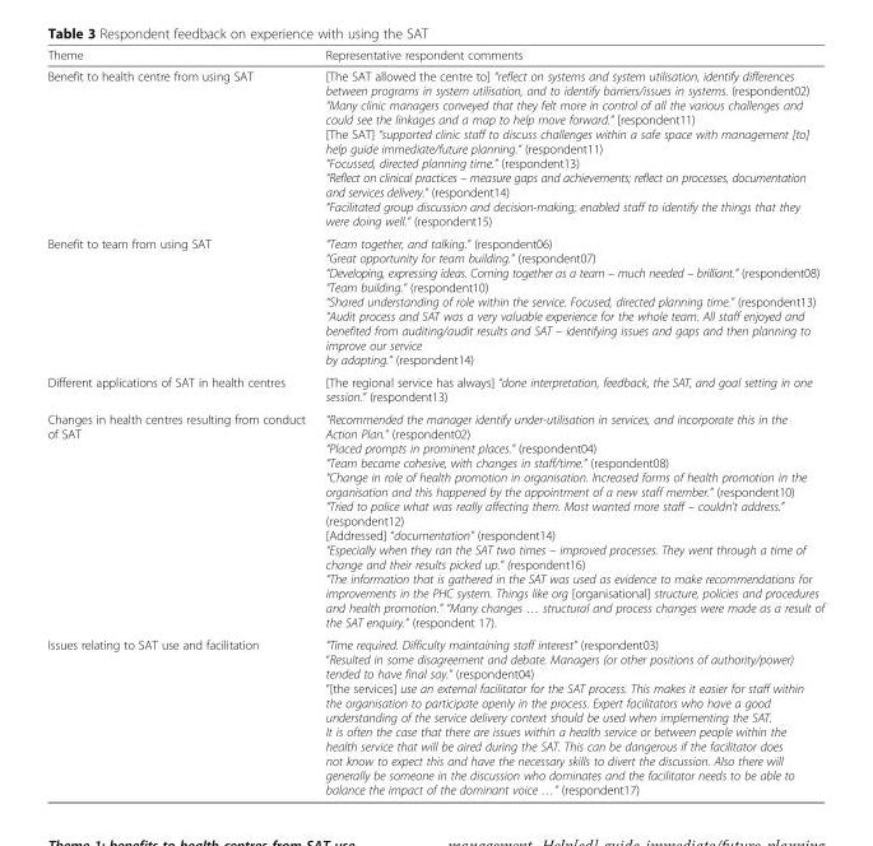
<table><thead><tr><td>Theme</td><td>Representative respondent comments</td></tr></thead><tbody><tr><td>Benefit to health centre from using SAT</td><td>[The SAT allowed the centre to] “reflect on systems and system utilisation, identify differences between programs in system utilisation, and to identify barriers/issues in systems. (respondent02) “Many clinic managers conveyed that they felt more in control of all the various challenges and could see the linkages and a map to help move forward.” [respondent11) [The SAT] “supported clinic staff to discuss challenges within a safe space with management [to] help guide immediate/future planning.” (respondent11) “Focussed, directed planning time.” (respondent13) “Reflect on clinical practices – measure gaps and achievements; reflect on processes, documentation and services delivery.” (respondent14) “Facilitated group discussion and decision-making; enabled staff to identify the things that they were doing well.” (respondent15)</td></tr><tr><td>Benefit to team from using SAT</td><td>“Team together, and talking.” (respondent06) “Great opportunity for team building.” (respondent07) “Developing, expressing ideas. Coming together as a team – much needed – brilliant.” (respondent08) “Team building.” (respondent10) “Shared understanding of role within the service. Focused, directed planning time.” (respondent13) “Audit process and SAT was a very valuable experience for the whole team. All staff enjoyed and benefited from auditing/audit results and SAT – identifying issues and gaps and then planning to improve our service by adapting.” (respondent14)</td></tr><tr><td>Different applications of SAT in health centres</td><td>[The regional service has always] “done interpretation, feedback, the SAT, and goal setting in one session.” (respondent13)</td></tr><tr><td>Changes in health centres resulting from conduct of SAT</td><td>“Recommended the manager identify under-utilisation in services, and incorporate this in the Action Plan.” (respondent02) “Placed prompts in prominent places.” (respondent04) “Team became cohesive, with changes in staff/time.” (respondent08) “Change in role of health promotion in organisation. Increased forms of health promotion in the organisation and this happened by the appointment of a new staff member.” (respondent10) “Tried to police what was really affecting them. Most wanted more staff – couldn’t address.” (respondent12) [Addressed] “documentation” (respondent14) “Especially when they ran the SAT two times – improved processes. They went through a time of change and their results picked up.” (respondent16) “The information that is gathered in the SAT was used as evidence to make recommendations for improvements in the PHC system. Things like org [organisational] structure, policies and procedures and health promotion.” “Many changes … structural and process changes were made as a result of the SAT enquiry.” (respondent 17).</td></tr><tr><td>Issues relating to SAT use and facilitation</td><td>“Time required. Difficulty maintaining staff interest” (respondent03) “Resulted in some disagreement and debate. Managers (or other positions of authority/power) tended to have final say.” (respondent04) “[the services] use an external facilitator for the SAT process. This makes it easier for staff within the organisation to participate openly in the process. Expert facilitators who have a good understanding of the service delivery context should be used when implementing the SAT. It is often the case that there are issues within a health service or between people within the health service that will be aired during the SAT. This can be dangerous if the facilitator does not know to expect this and have the necessary skills to divert the discussion. Also there will generally be someone in the discussion who dominates and the facilitator needs to be able to balance the impact of the dominant voice …” (respondent17)</td></tr></tbody></table>